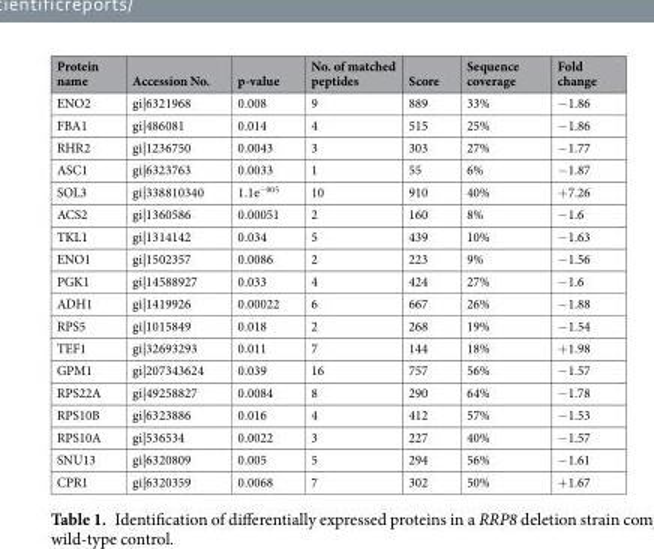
<table><thead><tr><td>Protein name</td><td>Accession No.</td><td>p-value</td><td>No. of matched peptides</td><td>Score</td><td>Sequence coverage</td><td>Fold change</td></tr></thead><tbody><tr><td>ENO2</td><td>gi|6321968</td><td>0.008</td><td>9</td><td>889</td><td>33%</td><td>−1.86</td></tr><tr><td>FBA1</td><td>gi|486081</td><td>0.014</td><td>4</td><td>515</td><td>25%</td><td>−1.86</td></tr><tr><td>RHR2</td><td>gi|1236750</td><td>0.0043</td><td>3</td><td>303</td><td>27%</td><td>−1.77</td></tr><tr><td>ASC1</td><td>gi|6323763</td><td>0.0033</td><td>1</td><td>55</td><td>6%</td><td>−1.87</td></tr><tr><td>SOL3</td><td>gi|338810340</td><td>1.1e<sup>−005</sup></td><td>10</td><td>910</td><td>40%</td><td>+7.26</td></tr><tr><td>ACS2</td><td>gi|1360586</td><td>0.00051</td><td>2</td><td>160</td><td>8%</td><td>−1.6</td></tr><tr><td>TKL1</td><td>gi|1314142</td><td>0.034</td><td>5</td><td>439</td><td>10%</td><td>−1.63</td></tr><tr><td>ENO1</td><td>gi|1502357</td><td>0.0086</td><td>2</td><td>223</td><td>9%</td><td>−1.56</td></tr><tr><td>PGK1</td><td>gi|14588927</td><td>0.033</td><td>4</td><td>424</td><td>27%</td><td>−1.6</td></tr><tr><td>ADH1</td><td>gi|1419926</td><td>0.00022</td><td>6</td><td>667</td><td>26%</td><td>−1.88</td></tr><tr><td>RPS5</td><td>gi|1015849</td><td>0.018</td><td>2</td><td>268</td><td>19%</td><td>−1.54</td></tr><tr><td>TEF1</td><td>gi|32693293</td><td>0.011</td><td>7</td><td>144</td><td>18%</td><td>+1.98</td></tr><tr><td>GPM1</td><td>gi|207343624</td><td>0.039</td><td>16</td><td>757</td><td>56%</td><td>−1.57</td></tr><tr><td>RPS22A</td><td>gi|49258827</td><td>0.0084</td><td>8</td><td>290</td><td>64%</td><td>−1.78</td></tr><tr><td>RPS10B</td><td>gi|6323886</td><td>0.016</td><td>4</td><td>412</td><td>57%</td><td>−1.53</td></tr><tr><td>RPS10A</td><td>gi|536534</td><td>0.0022</td><td>3</td><td>227</td><td>40%</td><td>−1.57</td></tr><tr><td>SNU13</td><td>gi|6320809</td><td>0.005</td><td>5</td><td>294</td><td>56%</td><td>−1.61</td></tr><tr><td>CPR1</td><td>gi|6320359</td><td>0.0068</td><td>7</td><td>302</td><td>50%</td><td>+1.67</td></tr></tbody></table>